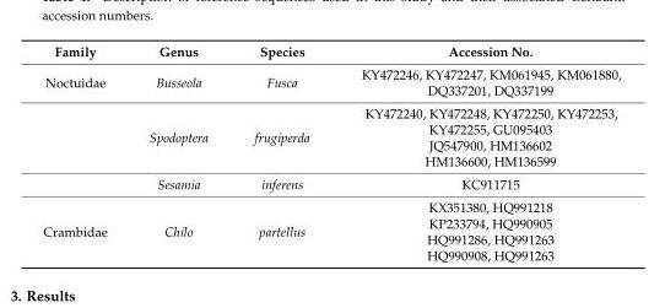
<table><thead><tr><td>Family</td><td>Genus</td><td>Species</td><td>Accession No.</td></tr></thead><tbody><tr><td rowspan="3">Noctuidae</td><td>Busseola</td><td>Fusca</td><td>KY472246, KY472247, KM061945, KM061880, DQ337201, DQ337199</td></tr><tr><td>Spodoptera</td><td>frugiperda</td><td>KY472240, KY472248, KY472250, KY472253, KY472255, GU095403 JQ547900, HM136602 HM136600, HM136599</td></tr><tr><td>Sesamia</td><td>inferens</td><td>KC911715</td></tr><tr><td>Crambidae</td><td>Chilo</td><td>partellus</td><td>KX351380, HQ991218 KP233794, HQ990905 HQ991286, HQ991263 HQ990908, HQ991263</td></tr></tbody></table>